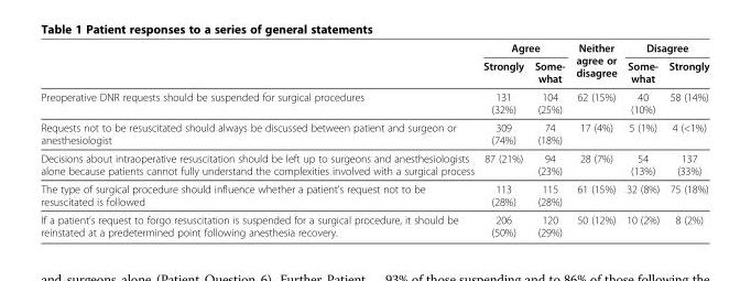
<table><thead><tr><td rowspan="2"></td><td colspan="2">Agree</td><td rowspan="2">Neither agree or disagree</td><td colspan="2">Disagree</td></tr><tr><td>Strongly</td><td>Some- what</td><td>Some- what</td><td>Strongly</td></tr></thead><tbody><tr><td>Preoperative DNR requests should be suspended for surgical procedures</td><td>131 (32%)</td><td>104 (25%)</td><td>62 (15%)</td><td>40 (10%)</td><td>58 (14%)</td></tr><tr><td>Requests not to be resuscitated should always be discussed between patient and surgeon or anesthesiologist</td><td>309 (74%)</td><td>74 (18%)</td><td>17 (4%)</td><td>5 (1%)</td><td>4 (&lt;1%)</td></tr><tr><td>Decisions about intraoperative resuscitation should be left up to surgeons and anesthesiologists alone because patients cannot fully understand the complexities involved with a surgical process</td><td>87 (21%)</td><td>94 (23%)</td><td>28 (7%)</td><td>54 (13%)</td><td>137 (33%)</td></tr><tr><td>The type of surgical procedure should influence whether a patient’s request not to be resuscitated is followed</td><td>113 (28%)</td><td>115 (28%)</td><td>61 (15%)</td><td>32 (8%)</td><td>75 (18%)</td></tr><tr><td>If a patient’s request to forgo resuscitation is suspended for a surgical procedure, it should be reinstated at a predetermined point following anesthesia recovery.</td><td>206 (50%)</td><td>120 (29%)</td><td>50 (12%)</td><td>10 (2%)</td><td>8 (2%)</td></tr></tbody></table>